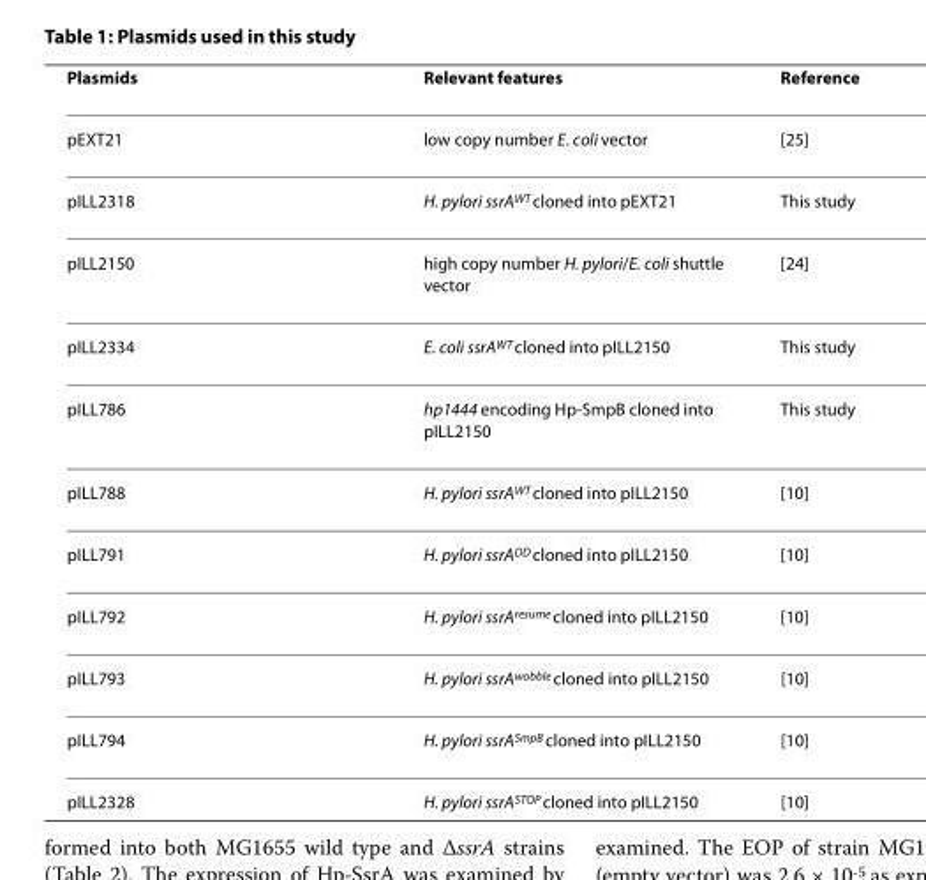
<table><thead><tr><td>Plasmids</td><td>Relevant features</td><td>Reference</td></tr></thead><tbody><tr><td>pEXT21</td><td>low copy number E. coli vector</td><td>[25]</td></tr><tr><td>pILL2318</td><td>H. pylori ssrA<sup>WT</sup> cloned into pEXT21</td><td>This study</td></tr><tr><td>pILL2150</td><td>high copy number H. pylori/E. coli shuttle vector</td><td>[24]</td></tr><tr><td>pILL2334</td><td>E. coli ssrA<sup>WT</sup> cloned into pILL2150</td><td>This study</td></tr><tr><td>pILL786</td><td>hp1444 encoding Hp-SmpB cloned into pILL2150</td><td>This study</td></tr><tr><td>pILL788</td><td>H. pylori ssrA<sup>WT</sup> cloned into pILL2150</td><td>[10]</td></tr><tr><td>pILL791</td><td>H. pylori ssrA<sup>DD</sup> cloned into pILL2150</td><td>[10]</td></tr><tr><td>pILL792</td><td>H. pylori ssrA<sup>resume</sup> cloned into pILL2150</td><td>[10]</td></tr><tr><td>pILL793</td><td>H. pylori ssrA<sup>wobble</sup> cloned into pILL2150</td><td>[10]</td></tr><tr><td>pILL794</td><td>H. pylori ssrA<sup>SmpB</sup> cloned into pILL2150</td><td>[10]</td></tr><tr><td>pILL2328</td><td>H. pylori ssrA<sup>STOP</sup> cloned into pILL2150</td><td>[10]</td></tr></tbody></table>